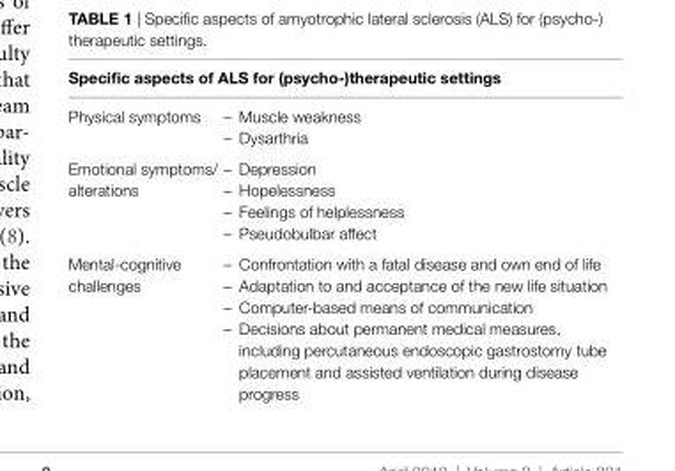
<table><thead><tr><td colspan="2">specific aspects of ALs for (psycho-)therapeutic settings</td></tr><tr><td>Physical symptoms</td><td>– Muscle weakness – Dysarthria</td></tr></thead><tbody><tr><td>Emotional symptoms/ alterations</td><td>– Depression – Hopelessness – Feelings of helplessness – Pseudobulbar affect</td></tr><tr><td>Mental-cognitive challenges</td><td>– Confrontation with a fatal disease and own end of life – Adaptation to and acceptance of the new life situation – Computer-based means of communication – Decisions about permanent medical measures, including percutaneous endoscopic gastrostomy tube placement and assisted ventilation during disease progress</td></tr></tbody></table>